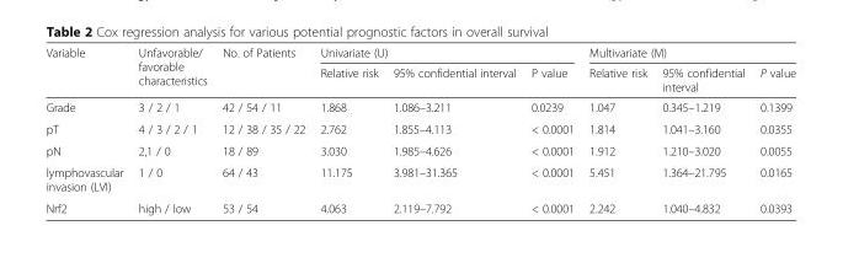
<table><thead><tr><td rowspan="2">Variable</td><td rowspan="2">Unfavorable/ favorable characteristics</td><td rowspan="2">No. of Patients</td><td colspan="3">Univariate (U)</td><td colspan="3">Multivariate (M)</td></tr><tr><td>Relative risk</td><td>95% confidential interval</td><td>P value</td><td>Relative risk</td><td>95% confidential interval</td><td>P value</td></tr></thead><tbody><tr><td>Grade</td><td>3 / 2 / 1</td><td>42 / 54 / 11</td><td>1.868</td><td>1.086–3.211</td><td>0.0239</td><td>1.047</td><td>0.345–1.219</td><td>0.1399</td></tr><tr><td>pT</td><td>4 / 3 / 2 / 1</td><td>12 / 38 / 35 / 22</td><td>2.762</td><td>1.855–4.113</td><td>&lt; 0.0001</td><td>1.814</td><td>1.041–3.160</td><td>0.0355</td></tr><tr><td>pN</td><td>2,1 / 0</td><td>18 / 89</td><td>3.030</td><td>1.985–4.626</td><td>&lt; 0.0001</td><td>1.912</td><td>1.210–3.020</td><td>0.0055</td></tr><tr><td>lymphovascular invasion (LVI)</td><td>1 / 0</td><td>64 / 43</td><td>11.175</td><td>3.981–31.365</td><td>&lt; 0.0001</td><td>5.451</td><td>1.364–21.795</td><td>0.0165</td></tr><tr><td>Nrf2</td><td>high / low</td><td>53 / 54</td><td>4.063</td><td>2.119–7.792</td><td>&lt; 0.0001</td><td>2.242</td><td>1.040–4.832</td><td>0.0393</td></tr></tbody></table>